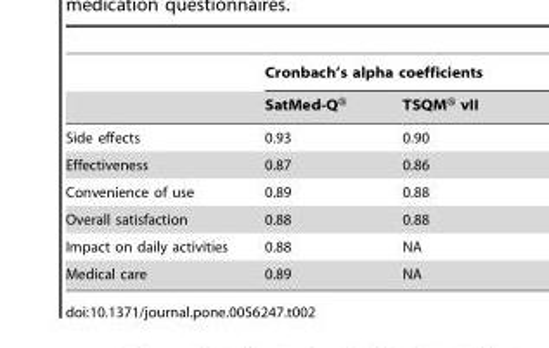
<table><thead><tr><td rowspan="2"></td><td colspan="2">Cronbach’s alpha coefficients</td></tr><tr><td>SatMed-Q®</td><td>TSQM® vII</td></tr></thead><tbody><tr><td>Side effects</td><td>0.93</td><td>0.90</td></tr><tr><td>Effectiveness</td><td>0.87</td><td>0.86</td></tr><tr><td>Convenience of use</td><td>0.89</td><td>0.88</td></tr><tr><td>Overall satisfaction</td><td>0.88</td><td>0.88</td></tr><tr><td>Impact on daily activities</td><td>0.88</td><td>NA</td></tr><tr><td>Medical care</td><td>0.89</td><td>NA</td></tr></tbody></table>